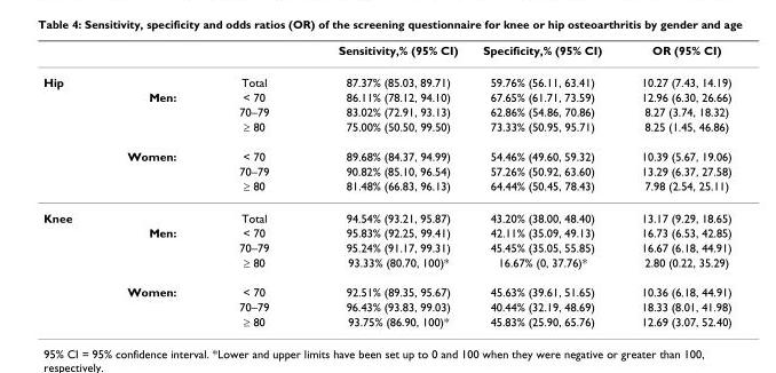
<table><thead><tr><td></td><td></td><td>Sensitivity,% (95% CI)</td><td>Specificity,% (95% CI)</td><td>OR (95% CI)</td></tr></thead><tbody><tr><td>Hip</td><td>Total</td><td>87.37% (85.03, 89.71)</td><td>59.76% (56.11, 63.41)</td><td>10.27 (7.43, 14.19)</td></tr><tr><td rowspan="3">Men:</td><td>&lt; 70</td><td>86.11% (78.12, 94.10)</td><td>67.65% (61.71, 73.59)</td><td>12.96 (6.30, 26.66)</td></tr><tr><td>70–79</td><td>83.02% (72.91, 93.13)</td><td>62.86% (54.86, 70.86)</td><td>8.27 (3.74, 18.32)</td></tr><tr><td>≥ 80</td><td>75.00% (50.50, 99.50)</td><td>73.33% (50.95, 95.71)</td><td>8.25 (1.45, 46.86)</td></tr><tr><td rowspan="3">Women:</td><td>&lt; 70</td><td>89.68% (84.37, 94.99)</td><td>54.46% (49.60, 59.32)</td><td>10.39 (5.67, 19.06)</td></tr><tr><td>70–79</td><td>90.82% (85.10, 96.54)</td><td>57.26% (50.92, 63.60)</td><td>13.29 (6.37, 27.58)</td></tr><tr><td>≥ 80</td><td>81.48% (66.83, 96.13)</td><td>64.44% (50.45, 78.43)</td><td>7.98 (2.54, 25.11)</td></tr><tr><td>Knee</td><td>Total</td><td>94.54% (93.21, 95.87)</td><td>43.20% (38.00, 48.40)</td><td>13.17 (9.29, 18.65)</td></tr><tr><td rowspan="3">Men:</td><td>&lt; 70</td><td>95.83% (92.25, 99.41)</td><td>42.11% (35.09, 49.13)</td><td>16.73 (6.53, 42.85)</td></tr><tr><td>70–79</td><td>95.24% (91.17, 99.31)</td><td>45.45% (35.05, 55.85)</td><td>16.67 (6.18, 44.91)</td></tr><tr><td>≥ 80</td><td>93.33% (80.70, 100)*</td><td>16.67% (0, 37.76)*</td><td>2.80 (0.22, 35.29)</td></tr><tr><td rowspan="3">Women:</td><td>&lt; 70</td><td>92.51% (89.35, 95.67)</td><td>45.63% (39.61, 51.65)</td><td>10.36 (6.18, 44.91)</td></tr><tr><td>70–79</td><td>96.43% (93.83, 99.03)</td><td>40.44% (32.19, 48.69)</td><td>18.33 (8.01, 41.98)</td></tr><tr><td>≥ 80</td><td>93.75% (86.90, 100)*</td><td>45.83% (25.90, 65.76)</td><td>12.69 (3.07, 52.40)</td></tr></tbody></table>